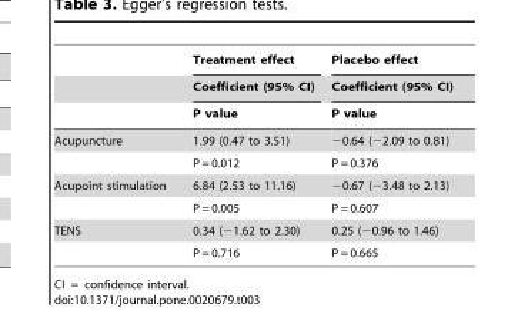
<table><thead><tr><td rowspan="3"></td><td rowspan="3">Treatment effect Coefficient (95% CI) P value</td><td rowspan="3">Placebo effect Coefficient (95% CI) P value</td></tr><tr></tr><tr></tr></thead><tbody><tr><td rowspan="2">Acupuncture</td><td>1.99 (0.47 to 3.51)</td><td>−0.64 (−2.09 to 0.81)</td></tr><tr><td>P = 0.012</td><td>P = 0.376</td></tr><tr><td rowspan="2">Acupoint stimulation</td><td>6.84 (2.53 to 11.16)</td><td>−0.67 (−3.48 to 2.13)</td></tr><tr><td>P = 0.005</td><td>P = 0.607</td></tr><tr><td rowspan="2">TENS</td><td>0.34 (−1.62 to 2.30)</td><td>0.25 (−0.96 to 1.46)</td></tr><tr><td>P = 0.716</td><td>P = 0.665</td></tr></tbody></table>